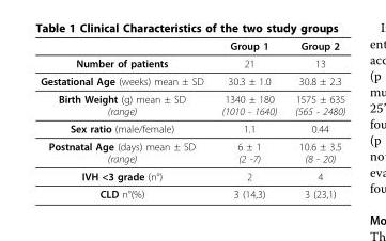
<table><thead><tr><td></td><td>Group 1</td><td>Group 2</td></tr></thead><tbody><tr><td>Number of patients</td><td>21</td><td>13</td></tr><tr><td>Gestational Age (weeks) mean ± SD</td><td>30.3 ± 1.0</td><td>30.8 ± 2.3</td></tr><tr><td>Birth Weight (g) mean ± SD (range)</td><td>1340 ± 180 (1010 - 1640)</td><td>1575 ± 635 (565 - 2480)</td></tr><tr><td>Sex ratio (male/female)</td><td>1.1</td><td>0.44</td></tr><tr><td>Postnatal Age (days) mean ± SD (range)</td><td>6 ± 1 (2 -7)</td><td>10.6 ± 3.5 (8 - 20)</td></tr><tr><td>IVH &lt;3 grade (n°)</td><td>2</td><td>4</td></tr><tr><td>CLD n°(%)</td><td>3 (14,3)</td><td>3 (23,1)</td></tr></tbody></table>